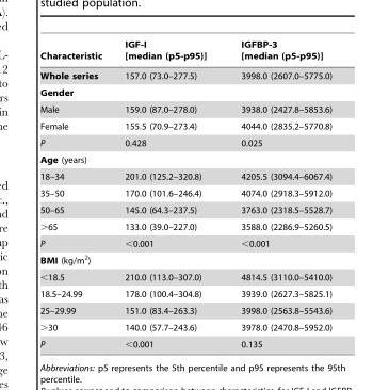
<table><thead><tr><td>Characteristic</td><td>IGF-I [median (p5-p95)]</td><td>IGFBP-3 [median (p5-p95)]</td></tr></thead><tbody><tr><td>Whole series</td><td>157.0 (73.0–277.5)</td><td>3998.0 (2607.0–5775.0)</td></tr><tr><td colspan="3">Gender</td></tr><tr><td>Male</td><td>159.0 (87.0–278.0)</td><td>3938.0 (2427.8–5853.6)</td></tr><tr><td>Female</td><td>155.5 (70.9–273.4)</td><td>4044.0 (2835.2–5770.8)</td></tr><tr><td>P</td><td>0.428</td><td>0.025</td></tr><tr><td colspan="3">Age (years)</td></tr><tr><td>18–34</td><td>201.0 (125.2–320.8)</td><td>4205.5 (3094.4–6067.4)</td></tr><tr><td>35–50</td><td>170.0 (101.6–246.4)</td><td>4074.0 (2918.3–5912.0)</td></tr><tr><td>50–65</td><td>145.0 (64.3–237.5)</td><td>3763.0 (2318.5–5528.7)</td></tr><tr><td>&gt;65</td><td>133.0 (39.0–227.0)</td><td>3588.0 (2286.9–5260.5)</td></tr><tr><td>P</td><td>&lt;0.001</td><td>&lt;0.001</td></tr><tr><td colspan="3">BMI (kg/m<sup>2</sup>)</td></tr><tr><td>&lt;18.5</td><td>210.0 (113.0–307.0)</td><td>4814.5 (3110.0–5410.0)</td></tr><tr><td>18.5–24.99</td><td>178.0 (100.4–304.8)</td><td>3939.0 (2627.3–5825.1)</td></tr><tr><td>25–29.99</td><td>151.0 (83.4–263.3)</td><td>3998.0 (2563.8–5543.6)</td></tr><tr><td>&gt;30</td><td>140.0 (57.7–243.6)</td><td>3978.0 (2470.8–5952.0)</td></tr><tr><td>P</td><td>&lt;0.001</td><td>0.135</td></tr></tbody></table>